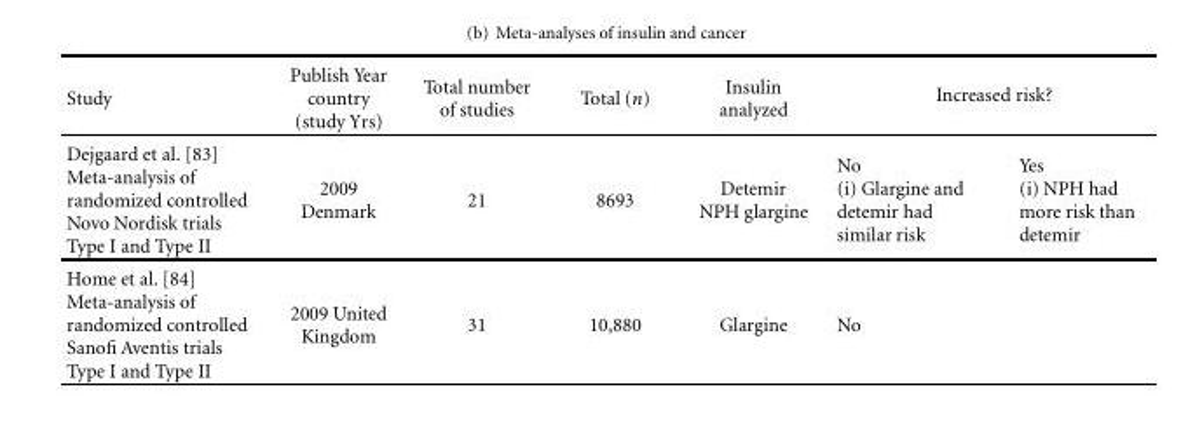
<table><thead><tr><td rowspan="2">Study Dejgaard et al. [83] Meta-analysis of randomized controlled Novo Nordisk trials Type I and Type II</td><td rowspan="2">Publish Year country (study Yrs) 2009 Denmark</td><td rowspan="2">Total number of studies 21</td><td rowspan="2">Total (n) 8693</td><td rowspan="2">Insulin analyzed Detemir NPH glargine</td><td colspan="2">Increased risk?</td></tr><tr><td>No (i) Glargine and detemir had similar risk</td><td>Yes (i) NPH had more risk than detemir</td></tr></thead><tbody><tr><td>Home et al. [84] Meta-analysis of randomized controlled Sanofi Aventis trials Type I and Type II</td><td>2009 United Kingdom</td><td>31</td><td>10,880</td><td>Glargine</td><td>No</td><td></td></tr></tbody></table>